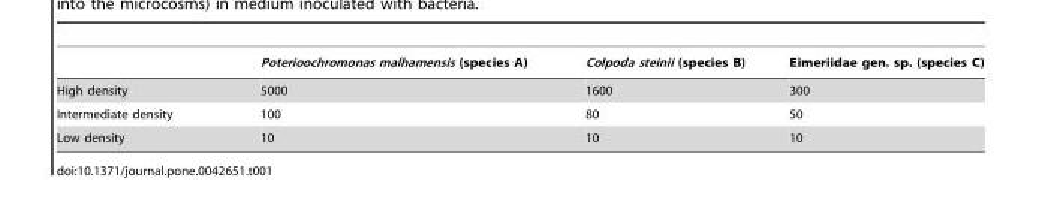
<table><thead><tr><td></td><td>Poterioochromonas malhamensis (species A)</td><td>Colpoda steinii (species B)</td><td>Eimeriidae gen. sp. (species C)</td></tr></thead><tbody><tr><td>High density</td><td>5000</td><td>1600</td><td>300</td></tr><tr><td>Intermediate density</td><td>100</td><td>80</td><td>50</td></tr><tr><td>Low density</td><td>10</td><td>10</td><td>10</td></tr></tbody></table>